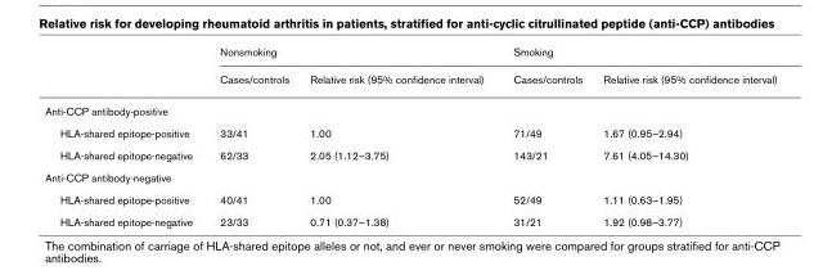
<table><thead><tr><td rowspan="2"></td><td colspan="2">Nonsmoking</td><td colspan="2">Smoking</td></tr><tr><td>Cases/controls</td><td>Relative risk (95% confidence interval)</td><td>Cases/controls</td><td>Relative risk (95% confidence interval)</td></tr></thead><tbody><tr><td colspan="5">Anti-CCP antibody-positive</td></tr><tr><td>HLA-shared epitope-positive</td><td>33/41</td><td>1.00</td><td>71/49</td><td>1.67 (0.95–2.94)</td></tr><tr><td>HLA-shared epitope-negative</td><td>62/33</td><td>2.05 (1.12–3.75)</td><td>143/21</td><td>7.61 (4.05–14.30)</td></tr><tr><td colspan="5">Anti-CCP antibody-negative</td></tr><tr><td>HLA-shared epitope-positive</td><td>40/41</td><td>1.00</td><td>52/49</td><td>1.11 (0.63–1.95)</td></tr><tr><td>HLA-shared epitope-negative</td><td>23/33</td><td>0.71 (0.37–1.38)</td><td>31/21</td><td>1.92 (0.98–3.77)</td></tr></tbody></table>